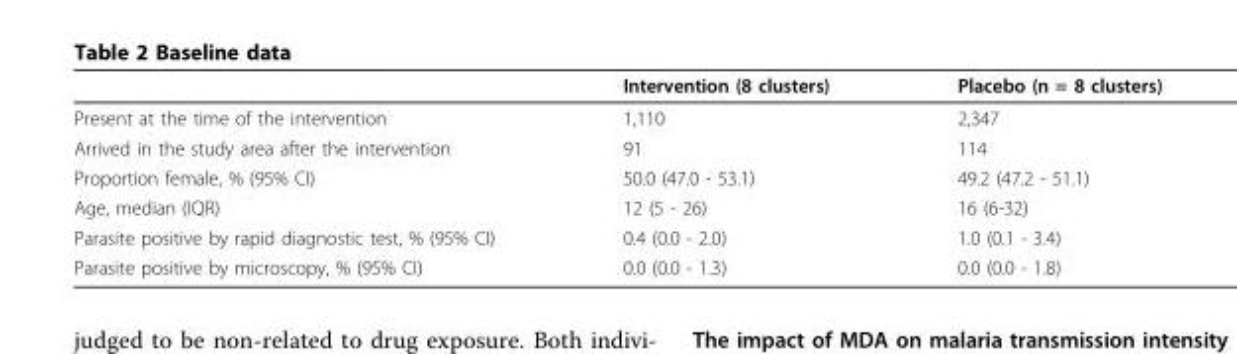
<table><thead><tr><td></td><td>Intervention (8 clusters)</td><td>Placebo (n = 8 clusters)</td></tr></thead><tbody><tr><td>Present at the time of the intervention</td><td>1,110</td><td>2,347</td></tr><tr><td>Arrived in the study area after the intervention</td><td>91</td><td>114</td></tr><tr><td>Proportion female, % (95% CI)</td><td>50.0 (47.0 - 53.1)</td><td>49.2 (47.2 - 51.1)</td></tr><tr><td>Age, median (IQR)</td><td>12 (5 - 26)</td><td>16 (6-32)</td></tr><tr><td>Parasite positive by rapid diagnostic test, % (95% CI)</td><td>0.4 (0.0 - 2.0)</td><td>1.0 (0.1 - 3.4)</td></tr><tr><td>Parasite positive by microscopy, % (95% CI)</td><td>0.0 (0.0 - 1.3)</td><td>0.0 (0.0 - 1.8)</td></tr></tbody></table>